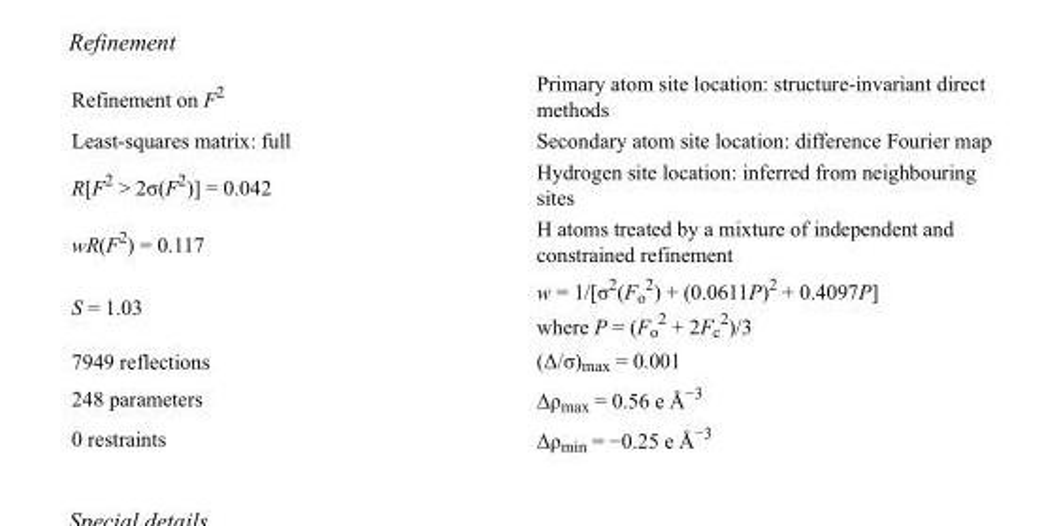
<table><tbody><tr><td>Refinement on F<sup>2</sup></td><td>Primary atom site location: structure-invariant direct methods</td></tr><tr><td>Least-squares matrix: full</td><td>Secondary atom site location: difference Fourier map</td></tr><tr><td>R[F<sup>2</sup> &gt; 2σ(F<sup>2</sup>)] = 0.042</td><td>Hydrogen site location: inferred from neighbouring sites</td></tr><tr><td>wR(F<sup>2</sup>) = 0.117</td><td>H atoms treated by a mixture of independent and constrained refinement</td></tr><tr><td>S = 1.03</td><td>w = 1/[σ<sup>2</sup>(F<sub>o</sub> <sup>2</sup>) + (0.0611P)<sup>2</sup> + 0.4097P] where P = (F<sub>o</sub> <sup>2</sup> + 2F<sub>c</sub> <sup>2</sup>)/3</td></tr><tr><td>7949 reflections</td><td>(Δ/σ)<sub>max</sub> = 0.001</td></tr><tr><td>248 parameters</td><td>Δρ<sub>max</sub> = 0.56 e Å<sup>−3</sup></td></tr><tr><td>0 restraints</td><td>Δρ<sub>min</sub> = −0.25 e Å<sup>−3</sup></td></tr></tbody></table>